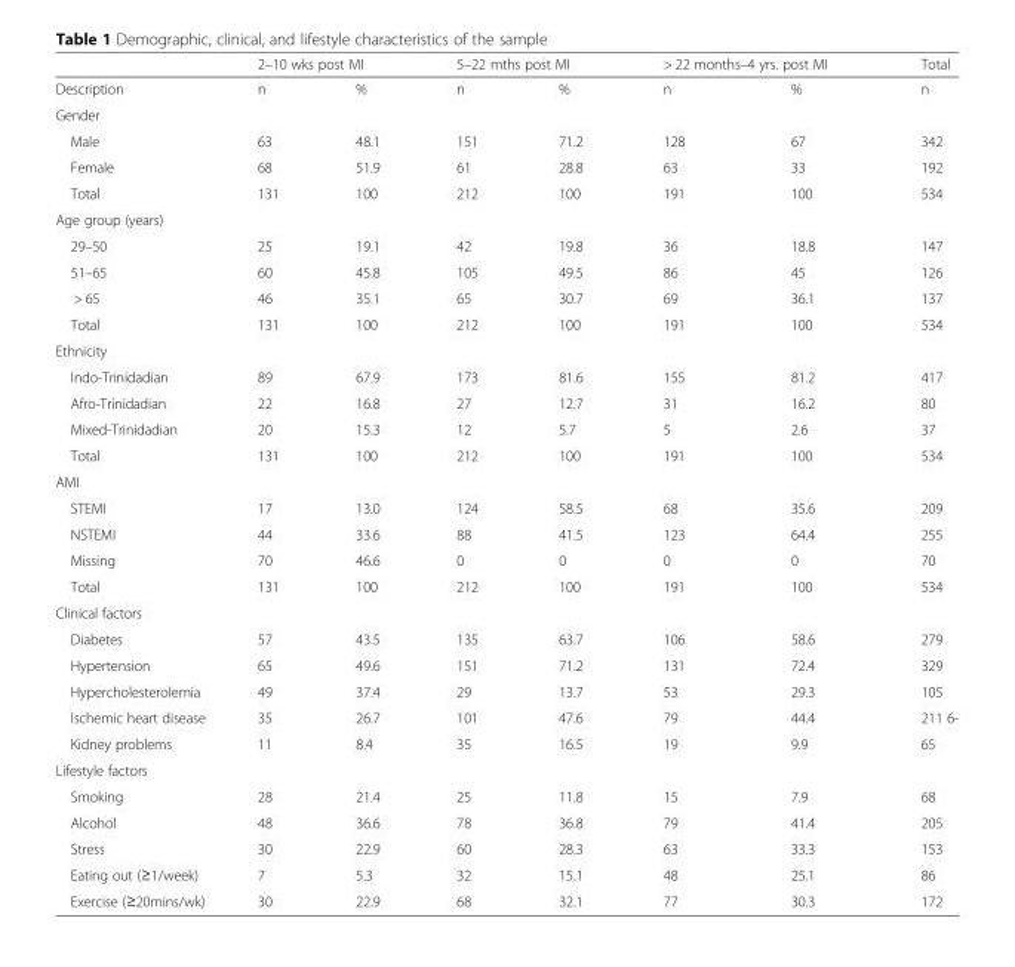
<table><thead><tr><td rowspan="2">Description</td><td colspan="2">2–10 wks post MI</td><td colspan="2">5–22 mths post MI</td><td colspan="2">&gt; 22 months–4 yrs. post MI</td><td rowspan="2">Total n</td></tr><tr><td>n</td><td>%</td><td>n</td><td>%</td><td>n</td><td>%</td></tr></thead><tbody><tr><td colspan="8">Gender</td></tr><tr><td>Male</td><td>63</td><td>48.1</td><td>151</td><td>71.2</td><td>128</td><td>67</td><td>342</td></tr><tr><td>Female</td><td>68</td><td>51.9</td><td>61</td><td>28.8</td><td>63</td><td>33</td><td>192</td></tr><tr><td>Total</td><td>131</td><td>100</td><td>212</td><td>100</td><td>191</td><td>100</td><td>534</td></tr><tr><td colspan="8">Age group (years)</td></tr><tr><td>29–50</td><td>25</td><td>19.1</td><td>42</td><td>19.8</td><td>36</td><td>18.8</td><td>147</td></tr><tr><td>51–65</td><td>60</td><td>45.8</td><td>105</td><td>49.5</td><td>86</td><td>45</td><td>126</td></tr><tr><td>&gt; 65</td><td>46</td><td>35.1</td><td>65</td><td>30.7</td><td>69</td><td>36.1</td><td>137</td></tr><tr><td>Total</td><td>131</td><td>100</td><td>212</td><td>100</td><td>191</td><td>100</td><td>534</td></tr><tr><td colspan="8">Ethnicity</td></tr><tr><td>Indo-Trinidadian</td><td>89</td><td>67.9</td><td>173</td><td>81.6</td><td>155</td><td>81.2</td><td>417</td></tr><tr><td>Afro-Trinidadian</td><td>22</td><td>16.8</td><td>27</td><td>12.7</td><td>31</td><td>16.2</td><td>80</td></tr><tr><td>Mixed-Trinidadian</td><td>20</td><td>15.3</td><td>12</td><td>5.7</td><td>5</td><td>2.6</td><td>37</td></tr><tr><td>Total</td><td>131</td><td>100</td><td>212</td><td>100</td><td>191</td><td>100</td><td>534</td></tr><tr><td colspan="8">AMI</td></tr><tr><td>STEMI</td><td>17</td><td>13.0</td><td>124</td><td>58.5</td><td>68</td><td>35.6</td><td>209</td></tr><tr><td>NSTEMI</td><td>44</td><td>33.6</td><td>88</td><td>41.5</td><td>123</td><td>64.4</td><td>255</td></tr><tr><td>Missing</td><td>70</td><td>46.6</td><td>0</td><td>0</td><td>0</td><td>0</td><td>70</td></tr><tr><td>Total</td><td>131</td><td>100</td><td>212</td><td>100</td><td>191</td><td>100</td><td>534</td></tr><tr><td colspan="8">Clinical factors</td></tr><tr><td>Diabetes</td><td>57</td><td>43.5</td><td>135</td><td>63.7</td><td>106</td><td>58.6</td><td>279</td></tr><tr><td>Hypertension</td><td>65</td><td>49.6</td><td>151</td><td>71.2</td><td>131</td><td>72.4</td><td>329</td></tr><tr><td>Hypercholesterolemia</td><td>49</td><td>37.4</td><td>29</td><td>13.7</td><td>53</td><td>29.3</td><td>105</td></tr><tr><td>Ischemic heart disease</td><td>35</td><td>26.7</td><td>101</td><td>47.6</td><td>79</td><td>44.4</td><td>211 6-</td></tr><tr><td>Kidney problems</td><td>11</td><td>8.4</td><td>35</td><td>16.5</td><td>19</td><td>9.9</td><td>65</td></tr><tr><td colspan="8">Lifestyle factors</td></tr><tr><td>Smoking</td><td>28</td><td>21.4</td><td>25</td><td>11.8</td><td>15</td><td>7.9</td><td>68</td></tr><tr><td>Alcohol</td><td>48</td><td>36.6</td><td>78</td><td>36.8</td><td>79</td><td>41.4</td><td>205</td></tr><tr><td>Stress</td><td>30</td><td>22.9</td><td>60</td><td>28.3</td><td>63</td><td>33.3</td><td>153</td></tr><tr><td>Eating out (≥1/week)</td><td>7</td><td>5.3</td><td>32</td><td>15.1</td><td>48</td><td>25.1</td><td>86</td></tr><tr><td>Exercise (≥20mins/wk)</td><td>30</td><td>22.9</td><td>68</td><td>32.1</td><td>77</td><td>30.3</td><td>172</td></tr></tbody></table>